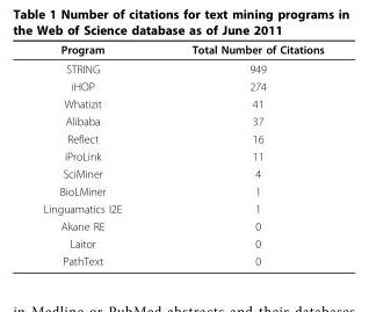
<table><thead><tr><td>Program</td><td>Total Number of Citations</td></tr></thead><tbody><tr><td>STRING</td><td>949</td></tr><tr><td>iHOP</td><td>274</td></tr><tr><td>Whatizit</td><td>41</td></tr><tr><td>Alibaba</td><td>37</td></tr><tr><td>Reflect</td><td>16</td></tr><tr><td>iProLink</td><td>11</td></tr><tr><td>SciMiner</td><td>4</td></tr><tr><td>BioLMiner</td><td>1</td></tr><tr><td>Linguamatics I2E</td><td>1</td></tr><tr><td>Akane RE</td><td>0</td></tr><tr><td>Laitor</td><td>0</td></tr><tr><td>PathText</td><td>0</td></tr></tbody></table>